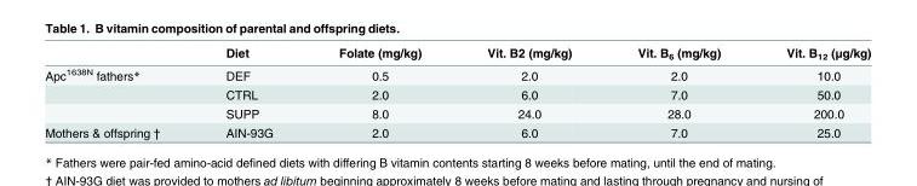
<table><thead><tr><td></td><td>Diet</td><td>Folate (mg/kg)</td><td>Vit. B2 (mg/kg)</td><td>Vit. B<sub>6</sub> (mg/kg)</td><td>Vit. B<sub>12</sub> (μg/kg)</td></tr></thead><tbody><tr><td rowspan="3">Apc<sup>1638N</sup> fathers*</td><td>DEF</td><td>0.5</td><td>2.0</td><td>2.0</td><td>10.0</td></tr><tr><td>CTRL</td><td>2.0</td><td>6.0</td><td>7.0</td><td>50.0</td></tr><tr><td>SUPP</td><td>8.0</td><td>24.0</td><td>28.0</td><td>200.0</td></tr><tr><td>Mothers &amp; offspring †</td><td>AIN-93G</td><td>2.0</td><td>6.0</td><td>7.0</td><td>25.0</td></tr></tbody></table>